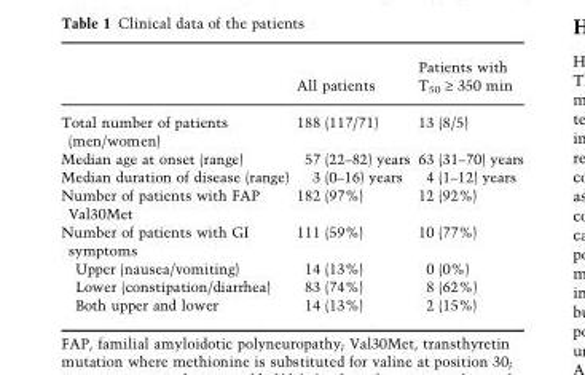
<table><thead><tr><td></td><td>All patients</td><td>Patients with T50 ‡ 350 min</td></tr></thead><tbody><tr><td>Total number of patients (men/women)</td><td>188 (117/71)</td><td>13 (8/5)</td></tr><tr><td>Median age at onset (range)</td><td>57 (22–82) years</td><td>63 (31–70) years</td></tr><tr><td>Median duration of disease (range)</td><td>3 (0–16) years</td><td>4 (1–12) years</td></tr><tr><td>Number of patients with FAP Val30Met</td><td>182 (97%)</td><td>12 (92%)</td></tr><tr><td>Number of patients with GI symptoms</td><td>111 (59%)</td><td>10 (77%)</td></tr><tr><td>Upper (nausea/vomiting)</td><td>14 (13%)</td><td>0 (0%)</td></tr><tr><td>Lower (constipation/diarrhea)</td><td>83 (74%)</td><td>8 (62%)</td></tr><tr><td>Both upper and lower</td><td>14 (13%)</td><td>2 (15%)</td></tr></tbody></table>